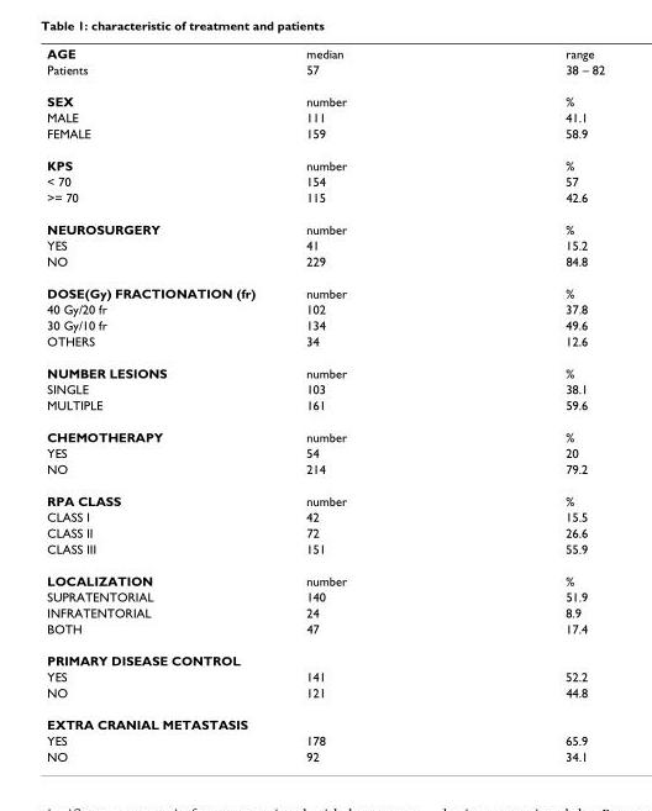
<table><tbody><tr><td>AGE</td><td>median</td><td>range</td></tr><tr><td>Patients</td><td>57</td><td>38 – 82</td></tr><tr><td>SEX</td><td>number</td><td>%</td></tr><tr><td>MALE</td><td>111</td><td>41.1</td></tr><tr><td>FEMALE</td><td>159</td><td>58.9</td></tr><tr><td>KPS</td><td>number</td><td>%</td></tr><tr><td>&lt; 70</td><td>154</td><td>57</td></tr><tr><td>&gt;= 70</td><td>115</td><td>42.6</td></tr><tr><td>NEUROSURGERY</td><td>number</td><td>%</td></tr><tr><td>YES</td><td>41</td><td>15.2</td></tr><tr><td>NO</td><td>229</td><td>84.8</td></tr><tr><td>DOSE(Gy) FRACTIONATION (fr)</td><td>number</td><td>%</td></tr><tr><td>40 Gy/20 fr</td><td>102</td><td>37.8</td></tr><tr><td>30 Gy/10 fr</td><td>134</td><td>49.6</td></tr><tr><td>OTHERS</td><td>34</td><td>12.6</td></tr><tr><td>NUMBER LESIONS</td><td>number</td><td>%</td></tr><tr><td>SINGLE</td><td>103</td><td>38.1</td></tr><tr><td>MULTIPLE</td><td>161</td><td>59.6</td></tr><tr><td>CHEMOTHERAPY</td><td>number</td><td>%</td></tr><tr><td>YES</td><td>54</td><td>20</td></tr><tr><td>NO</td><td>214</td><td>79.2</td></tr><tr><td>RPA CLASS</td><td>number</td><td>%</td></tr><tr><td>CLASS I</td><td>42</td><td>15.5</td></tr><tr><td>CLASS II</td><td>72</td><td>26.6</td></tr><tr><td>CLASS III</td><td>151</td><td>55.9</td></tr><tr><td>LOCALIZATION</td><td>number</td><td>%</td></tr><tr><td>SUPRATENTORIAL</td><td>140</td><td>51.9</td></tr><tr><td>INFRATENTORIAL</td><td>24</td><td>8.9</td></tr><tr><td>BOTH</td><td>47</td><td>17.4</td></tr><tr><td colspan="3">PRIMARY DISEASE CONTROL</td></tr><tr><td>YES</td><td>141</td><td>52.2</td></tr><tr><td>NO</td><td>121</td><td>44.8</td></tr><tr><td colspan="3">EXTRA CRANIAL METASTASIS</td></tr><tr><td>YES</td><td>178</td><td>65.9</td></tr><tr><td>NO</td><td>92</td><td>34.1</td></tr></tbody></table>